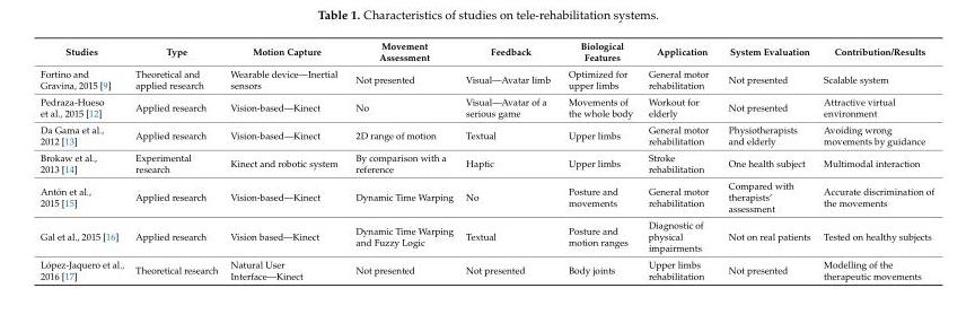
<table><thead><tr><td>Studies</td><td>Type</td><td>Motion Capture</td><td>Movement Assessment</td><td>Feedback</td><td>Biological Features</td><td>Application</td><td>System Evaluation</td><td>Contribution/Results</td></tr></thead><tbody><tr><td>Fortino and Gravina, 2015 [9]</td><td>Theoretical and applied research</td><td>Wearable device—Inertial sensors</td><td>Not presented</td><td>Visual—Avatar limb</td><td>Optimized for upper limbs</td><td>General motor rehabilitation</td><td>Not presented</td><td>Scalable system</td></tr><tr><td>Pedraza-Hueso et al., 2015 [12]</td><td>Applied research</td><td>Vision-based—Kinect</td><td>No</td><td>Visual—Avatar of a serious game</td><td>Movements of the whole body</td><td>Workout for elderly</td><td>Not presented</td><td>Attractive virtual environment</td></tr><tr><td>Da Gama et al., 2012 [13]</td><td>Applied research</td><td>Vision-based—Kinect</td><td>2D range of motion</td><td>Textual</td><td>Upper limbs</td><td>General motor rehabilitation</td><td>Physiotherapists and elderly</td><td>Avoiding wrong movements by guidance</td></tr><tr><td>Brokaw et al., 2013 [14]</td><td>Experimental research</td><td>Kinect and robotic system</td><td>By comparison with a reference</td><td>Haptic</td><td>Upper limbs</td><td>Stroke rehabilitation</td><td>One health subject</td><td>Multimodal interaction</td></tr><tr><td>Antón et al., 2015 [15]</td><td>Applied research</td><td>Vision-based—Kinect</td><td>Dynamic Time Warping</td><td>No</td><td>Posture and movements</td><td>General motor rehabilitation</td><td>Compared with therapists’ assessment</td><td>Accurate discrimination of the movements</td></tr><tr><td>Gal et al., 2015 [16]</td><td>Applied research</td><td>Vision based—Kinect</td><td>Dynamic Time Warping and Fuzzy Logic</td><td>Textual</td><td>Posture and motion ranges</td><td>Diagnostic of physical impairments</td><td>Not on real patients</td><td>Tested on healthy subjects</td></tr><tr><td>López-Jaquero et al., 2016 [17]</td><td>Theoretical research</td><td>Natural User Interface—Kinect</td><td>Not presented</td><td>Not presented</td><td>Body joints</td><td>Upper limbs rehabilitation</td><td>Not presented</td><td>Modelling of the therapeutic movements</td></tr></tbody></table>